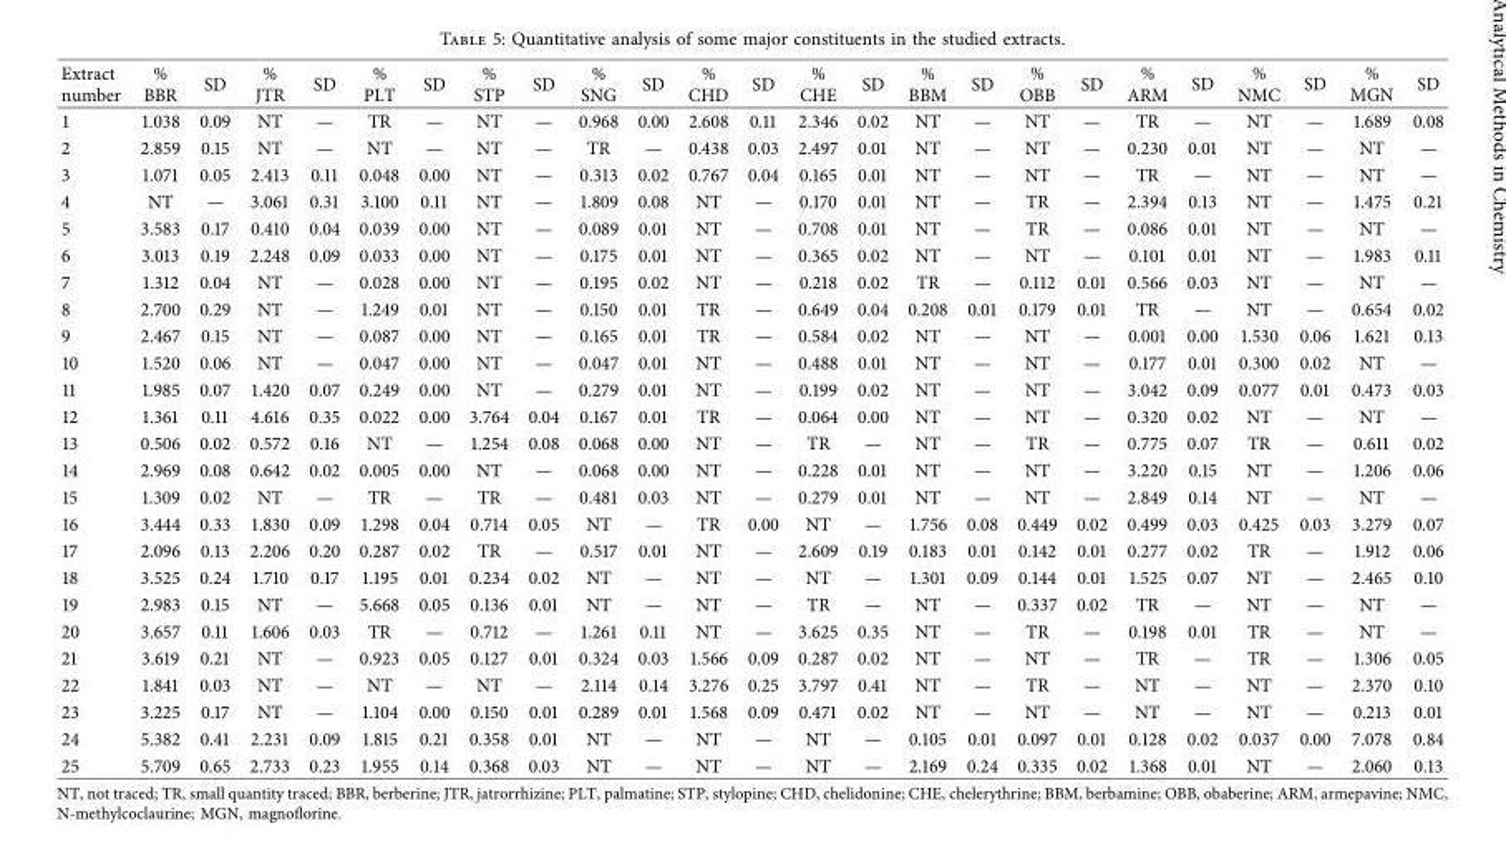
<table><thead><tr><td>Extract number</td><td>% BBR</td><td>SD</td><td>% JTR</td><td>SD</td><td>% PLT</td><td>SD</td><td>% STP</td><td>SD</td><td>% SNG</td><td>SD</td><td>% CHD</td><td>SD</td><td>% CHE</td><td>SD</td><td>% BBM</td><td>SD</td><td>% OBB</td><td>SD</td><td>% ARM</td><td>SD</td><td>% NMC</td><td>SD</td><td>% MGN</td><td>SD</td></tr></thead><tbody><tr><td>1</td><td>1.038</td><td>0.09</td><td>NT</td><td>—</td><td>TR</td><td>—</td><td>NT</td><td>—</td><td>0.968</td><td>0.00</td><td>2.608</td><td>0.11</td><td>2.346</td><td>0.02</td><td>NT</td><td>—</td><td>NT</td><td>—</td><td>TR</td><td>—</td><td>NT</td><td>—</td><td>1.689</td><td>0.08</td></tr><tr><td>2</td><td>2.859</td><td>0.15</td><td>NT</td><td>—</td><td>NT</td><td>—</td><td>NT</td><td>—</td><td>TR</td><td>—</td><td>0.438</td><td>0.03</td><td>2.497</td><td>0.01</td><td>NT</td><td>—</td><td>NT</td><td>—</td><td>0.230</td><td>0.01</td><td>NT</td><td>—</td><td>NT</td><td>—</td></tr><tr><td>3</td><td>1.071</td><td>0.05</td><td>2.413</td><td>0.11</td><td>0.048</td><td>0.00</td><td>NT</td><td>—</td><td>0.313</td><td>0.02</td><td>0.767</td><td>0.04</td><td>0.165</td><td>0.01</td><td>NT</td><td>—</td><td>NT</td><td>—</td><td>TR</td><td>—</td><td>NT</td><td>—</td><td>NT</td><td>—</td></tr><tr><td>4</td><td>NT</td><td>—</td><td>3.061</td><td>0.31</td><td>3.100</td><td>0.11</td><td>NT</td><td>—</td><td>1.809</td><td>0.08</td><td>NT</td><td>—</td><td>0.170</td><td>0.01</td><td>NT</td><td>—</td><td>TR</td><td>—</td><td>2.394</td><td>0.13</td><td>NT</td><td>—</td><td>1.475</td><td>0.21</td></tr><tr><td>5</td><td>3.583</td><td>0.17</td><td>0.410</td><td>0.04</td><td>0.039</td><td>0.00</td><td>NT</td><td>—</td><td>0.089</td><td>0.01</td><td>NT</td><td>—</td><td>0.708</td><td>0.01</td><td>NT</td><td>—</td><td>TR</td><td>—</td><td>0.086</td><td>0.01</td><td>NT</td><td>—</td><td>NT</td><td>—</td></tr><tr><td>6</td><td>3.013</td><td>0.19</td><td>2.248</td><td>0.09</td><td>0.033</td><td>0.00</td><td>NT</td><td>—</td><td>0.175</td><td>0.01</td><td>NT</td><td>—</td><td>0.365</td><td>0.02</td><td>NT</td><td>—</td><td>NT</td><td>—</td><td>0.101</td><td>0.01</td><td>NT</td><td>—</td><td>1.983</td><td>0.11</td></tr><tr><td>7</td><td>1.312</td><td>0.04</td><td>NT</td><td>—</td><td>0.028</td><td>0.00</td><td>NT</td><td>—</td><td>0.195</td><td>0.02</td><td>NT</td><td>—</td><td>0.218</td><td>0.02</td><td>TR</td><td>—</td><td>0.112</td><td>0.01</td><td>0.566</td><td>0.03</td><td>NT</td><td>—</td><td>NT</td><td>—</td></tr><tr><td>8</td><td>2.700</td><td>0.29</td><td>NT</td><td>—</td><td>1.249</td><td>0.01</td><td>NT</td><td>—</td><td>0.150</td><td>0.01</td><td>TR</td><td>—</td><td>0.649</td><td>0.04</td><td>0.208</td><td>0.01</td><td>0.179</td><td>0.01</td><td>TR</td><td>—</td><td>NT</td><td>—</td><td>0.654</td><td>0.02</td></tr><tr><td>9</td><td>2.467</td><td>0.15</td><td>NT</td><td>—</td><td>0.087</td><td>0.00</td><td>NT</td><td>—</td><td>0.165</td><td>0.01</td><td>TR</td><td>—</td><td>0.584</td><td>0.02</td><td>NT</td><td>—</td><td>NT</td><td>—</td><td>0.001</td><td>0.00</td><td>1.530</td><td>0.06</td><td>1.621</td><td>0.13</td></tr><tr><td>10</td><td>1.520</td><td>0.06</td><td>NT</td><td>—</td><td>0.047</td><td>0.00</td><td>NT</td><td>—</td><td>0.047</td><td>0.01</td><td>NT</td><td>—</td><td>0.488</td><td>0.01</td><td>NT</td><td>—</td><td>NT</td><td>—</td><td>0.177</td><td>0.01</td><td>0.300</td><td>0.02</td><td>NT</td><td>—</td></tr><tr><td>11</td><td>1.985</td><td>0.07</td><td>1.420</td><td>0.07</td><td>0.249</td><td>0.00</td><td>NT</td><td>—</td><td>0.279</td><td>0.01</td><td>NT</td><td>—</td><td>0.199</td><td>0.02</td><td>NT</td><td>—</td><td>NT</td><td>—</td><td>3.042</td><td>0.09</td><td>0.077</td><td>0.01</td><td>0.473</td><td>0.03</td></tr><tr><td>12</td><td>1.361</td><td>0.11</td><td>4.616</td><td>0.35</td><td>0.022</td><td>0.00</td><td>3.764</td><td>0.04</td><td>0.167</td><td>0.01</td><td>TR</td><td>—</td><td>0.064</td><td>0.00</td><td>NT</td><td>—</td><td>NT</td><td>—</td><td>0.320</td><td>0.02</td><td>NT</td><td>—</td><td>NT</td><td>—</td></tr><tr><td>13</td><td>0.506</td><td>0.02</td><td>0.572</td><td>0.16</td><td>NT</td><td>—</td><td>1.254</td><td>0.08</td><td>0.068</td><td>0.00</td><td>NT</td><td>—</td><td>TR</td><td>—</td><td>NT</td><td>—</td><td>TR</td><td>—</td><td>0.775</td><td>0.07</td><td>TR</td><td>—</td><td>0.611</td><td>0.02</td></tr><tr><td>14</td><td>2.969</td><td>0.08</td><td>0.642</td><td>0.02</td><td>0.005</td><td>0.00</td><td>NT</td><td>—</td><td>0.068</td><td>0.00</td><td>NT</td><td>—</td><td>0.228</td><td>0.01</td><td>NT</td><td>—</td><td>NT</td><td>—</td><td>3.220</td><td>0.15</td><td>NT</td><td>—</td><td>1.206</td><td>0.06</td></tr><tr><td>15</td><td>1.309</td><td>0.02</td><td>NT</td><td>—</td><td>TR</td><td>—</td><td>TR</td><td>—</td><td>0.481</td><td>0.03</td><td>NT</td><td>—</td><td>0.279</td><td>0.01</td><td>NT</td><td>—</td><td>NT</td><td>—</td><td>2.849</td><td>0.14</td><td>NT</td><td>—</td><td>NT</td><td>—</td></tr><tr><td>16</td><td>3.444</td><td>0.33</td><td>1.830</td><td>0.09</td><td>1.298</td><td>0.04</td><td>0.714</td><td>0.05</td><td>NT</td><td>—</td><td>TR</td><td>0.00</td><td>NT</td><td>—</td><td>1.756</td><td>0.08</td><td>0.449</td><td>0.02</td><td>0.499</td><td>0.03</td><td>0.425</td><td>0.03</td><td>3.279</td><td>0.07</td></tr><tr><td>17</td><td>2.096</td><td>0.13</td><td>2.206</td><td>0.20</td><td>0.287</td><td>0.02</td><td>TR</td><td>—</td><td>0.517</td><td>0.01</td><td>NT</td><td>—</td><td>2.609</td><td>0.19</td><td>0.183</td><td>0.01</td><td>0.142</td><td>0.01</td><td>0.277</td><td>0.02</td><td>TR</td><td>—</td><td>1.912</td><td>0.06</td></tr><tr><td>18</td><td>3.525</td><td>0.24</td><td>1.710</td><td>0.17</td><td>1.195</td><td>0.01</td><td>0.234</td><td>0.02</td><td>NT</td><td>—</td><td>NT</td><td>—</td><td>NT</td><td>—</td><td>1.301</td><td>0.09</td><td>0.144</td><td>0.01</td><td>1.525</td><td>0.07</td><td>NT</td><td>—</td><td>2.465</td><td>0.10</td></tr><tr><td>19</td><td>2.983</td><td>0.15</td><td>NT</td><td>—</td><td>5.668</td><td>0.05</td><td>0.136</td><td>0.01</td><td>NT</td><td>—</td><td>NT</td><td>—</td><td>TR</td><td>—</td><td>NT</td><td>—</td><td>0.337</td><td>0.02</td><td>TR</td><td>—</td><td>NT</td><td>—</td><td>NT</td><td>—</td></tr><tr><td>20</td><td>3.657</td><td>0.11</td><td>1.606</td><td>0.03</td><td>TR</td><td>—</td><td>0.712</td><td>—</td><td>1.261</td><td>0.11</td><td>NT</td><td>—</td><td>3.625</td><td>0.35</td><td>NT</td><td>—</td><td>TR</td><td>—</td><td>0.198</td><td>0.01</td><td>TR</td><td>—</td><td>NT</td><td>—</td></tr><tr><td>21</td><td>3.619</td><td>0.21</td><td>NT</td><td>—</td><td>0.923</td><td>0.05</td><td>0.127</td><td>0.01</td><td>0.324</td><td>0.03</td><td>1.566</td><td>0.09</td><td>0.287</td><td>0.02</td><td>NT</td><td>—</td><td>NT</td><td>—</td><td>TR</td><td>—</td><td>TR</td><td>—</td><td>1.306</td><td>0.05</td></tr><tr><td>22</td><td>1.841</td><td>0.03</td><td>NT</td><td>—</td><td>NT</td><td>—</td><td>NT</td><td>—</td><td>2.114</td><td>0.14</td><td>3.276</td><td>0.25</td><td>3.797</td><td>0.41</td><td>NT</td><td>—</td><td>TR</td><td>—</td><td>NT</td><td>—</td><td>NT</td><td>—</td><td>2.370</td><td>0.10</td></tr><tr><td>23</td><td>3.225</td><td>0.17</td><td>NT</td><td>—</td><td>1.104</td><td>0.00</td><td>0.150</td><td>0.01</td><td>0.289</td><td>0.01</td><td>1.568</td><td>0.09</td><td>0.471</td><td>0.02</td><td>NT</td><td>—</td><td>NT</td><td>—</td><td>NT</td><td>—</td><td>NT</td><td>—</td><td>0.213</td><td>0.01</td></tr><tr><td>24</td><td>5.382</td><td>0.41</td><td>2.231</td><td>0.09</td><td>1.815</td><td>0.21</td><td>0.358</td><td>0.01</td><td>NT</td><td>—</td><td>NT</td><td>—</td><td>NT</td><td>—</td><td>0.105</td><td>0.01</td><td>0.097</td><td>0.01</td><td>0.128</td><td>0.02</td><td>0.037</td><td>0.00</td><td>7.078</td><td>0.84</td></tr><tr><td>25</td><td>5.709</td><td>0.65</td><td>2.733</td><td>0.23</td><td>1.955</td><td>0.14</td><td>0.368</td><td>0.03</td><td>NT</td><td>—</td><td>NT</td><td>—</td><td>NT</td><td>—</td><td>2.169</td><td>0.24</td><td>0.335</td><td>0.02</td><td>1.368</td><td>0.01</td><td>NT</td><td>—</td><td>2.060</td><td>0.13</td></tr></tbody></table>